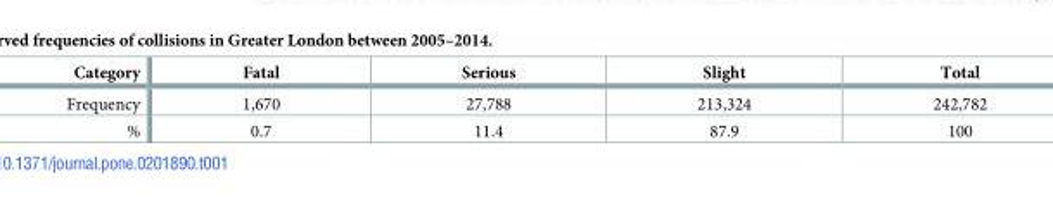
<table><thead><tr><td>Category</td><td>Fatal</td><td>Serious</td><td>Slight</td><td>Total</td></tr></thead><tbody><tr><td>Frequency</td><td>1,670</td><td>27,788</td><td>213,324</td><td>242,782</td></tr><tr><td>%</td><td>0.7</td><td>11.4</td><td>87.9</td><td>100</td></tr></tbody></table>